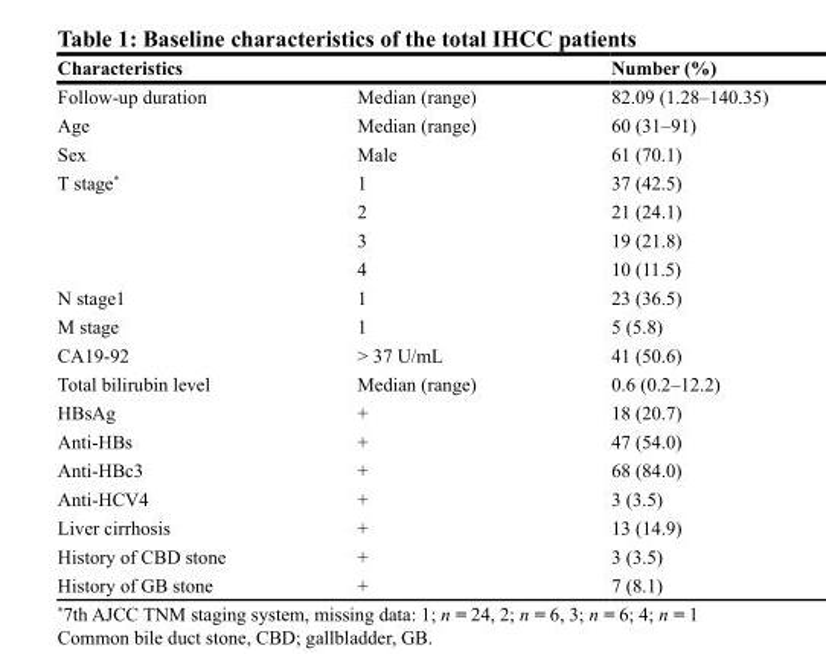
<table><thead><tr><td>Characteristics</td><td></td><td>Number (%)</td></tr></thead><tbody><tr><td>Follow-up duration</td><td>Median (range)</td><td>82.09 (1.28–140.35)</td></tr><tr><td>Age</td><td>Median (range)</td><td>60 (31–91)</td></tr><tr><td>Sex</td><td>Male</td><td>61 (70.1)</td></tr><tr><td rowspan="4">T stage*</td><td>1</td><td>37 (42.5)</td></tr><tr><td>2</td><td>21 (24.1)</td></tr><tr><td>3</td><td>19 (21.8)</td></tr><tr><td>4</td><td>10 (11.5)</td></tr><tr><td>N stage1</td><td>1</td><td>23 (36.5)</td></tr><tr><td>M stage</td><td>1</td><td>5 (5.8)</td></tr><tr><td>CA19-92</td><td>&gt; 37 U/mL</td><td>41 (50.6)</td></tr><tr><td>Total bilirubin level</td><td>Median (range)</td><td>0.6 (0.2–12.2)</td></tr><tr><td>HBsAg</td><td>+</td><td>18 (20.7)</td></tr><tr><td>Anti-HBs</td><td>+</td><td>47 (54.0)</td></tr><tr><td>Anti-HBc3</td><td>+</td><td>68 (84.0)</td></tr><tr><td>Anti-HCV4</td><td>+</td><td>3 (3.5)</td></tr><tr><td>Liver cirrhosis</td><td>+</td><td>13 (14.9)</td></tr><tr><td>History of CBD stone</td><td>+</td><td>3 (3.5)</td></tr><tr><td>History of GB stone</td><td>+</td><td>7 (8.1)</td></tr></tbody></table>